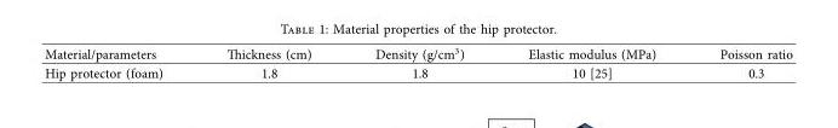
<table><thead><tr><td>Material/parameters</td><td>Tickness (cm)</td><td>Density (g/cm<sup>3</sup>)</td><td>Elastic modulus (MPa)</td><td>Poisson ratio</td></tr></thead><tbody><tr><td>Hip protector (foam)</td><td>1.8</td><td>1.8</td><td>10 [25]</td><td>0.3</td></tr></tbody></table>